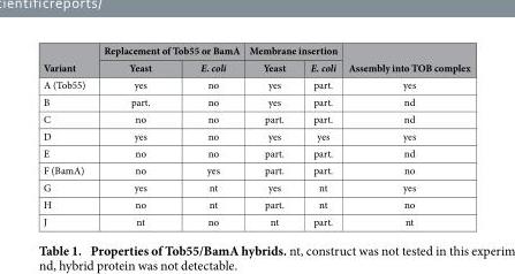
<table><thead><tr><td rowspan="2">Variant</td><td colspan="2">Replacement of Tob55 or BamA</td><td colspan="2">Membrane insertion</td><td rowspan="2">Assembly into TOB complex</td></tr><tr><td>Yeast</td><td>E. coli</td><td>Yeast</td><td>E. coli</td></tr></thead><tbody><tr><td>A (Tob55)</td><td>yes</td><td>no</td><td>yes</td><td>part.</td><td>yes</td></tr><tr><td>B</td><td>part.</td><td>no</td><td>yes</td><td>part.</td><td>nd</td></tr><tr><td>C</td><td>no</td><td>no</td><td>part.</td><td>part.</td><td>nd</td></tr><tr><td>D</td><td>yes</td><td>no</td><td>yes</td><td>yes</td><td>yes</td></tr><tr><td>E</td><td>no</td><td>no</td><td>part.</td><td>part.</td><td>nd</td></tr><tr><td>F (BamA)</td><td>no</td><td>yes</td><td>part.</td><td>part.</td><td>no</td></tr><tr><td>G</td><td>yes</td><td>nt</td><td>yes</td><td>nt</td><td>yes</td></tr><tr><td>H</td><td>no</td><td>nt</td><td>part.</td><td>nt</td><td>no</td></tr><tr><td>J</td><td>nt</td><td>no</td><td>nt</td><td>part.</td><td>nt</td></tr></tbody></table>